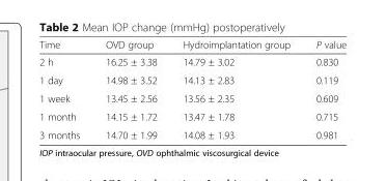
<table><thead><tr><td>Time</td><td>OVD group</td><td>Hydroimplantation group</td><td>P value</td></tr></thead><tbody><tr><td>2 h</td><td>16.25 ± 3.38</td><td>14.79 ± 3.02</td><td>0.830</td></tr><tr><td>1 day</td><td>14.98 ± 3.52</td><td>14.13 ± 2.83</td><td>0.119</td></tr><tr><td>1 week</td><td>13.45 ± 2.56</td><td>13.56 ± 2.35</td><td>0.609</td></tr><tr><td>1 month</td><td>14.15 ± 1.72</td><td>13.47 ± 1.78</td><td>0.715</td></tr><tr><td>3 months</td><td>14.70 ± 1.99</td><td>14.08 ± 1.93</td><td>0.981</td></tr></tbody></table>